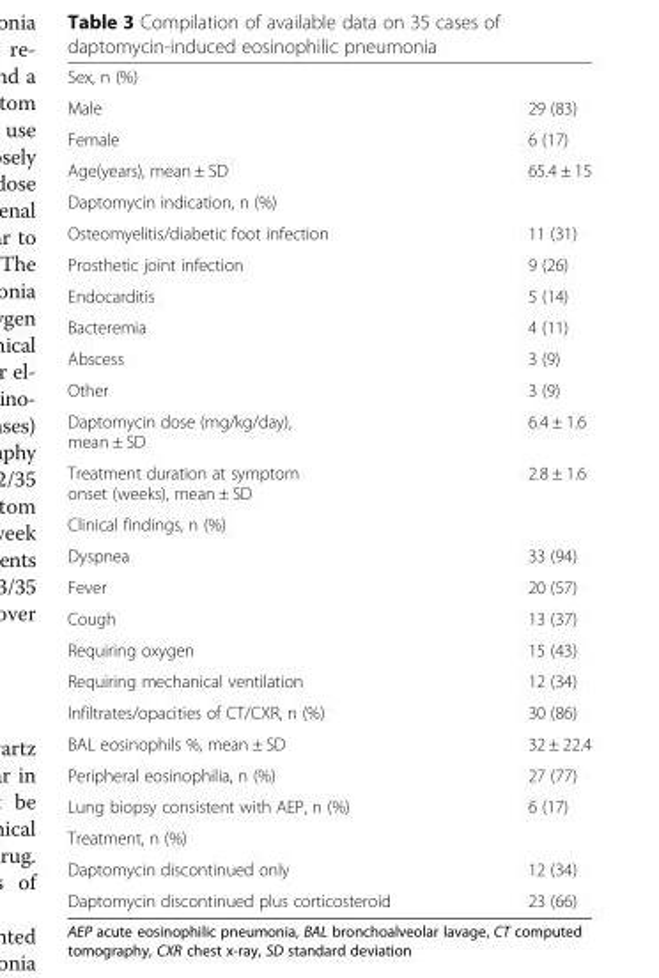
<table><tbody><tr><td colspan="2">Sex, n (%)</td></tr><tr><td>Male</td><td>29 (83)</td></tr><tr><td>Female</td><td>6 (17)</td></tr><tr><td>Age(years), mean ± SD</td><td>65.4 ± 15</td></tr><tr><td colspan="2">Daptomycin indication, n (%)</td></tr><tr><td>Osteomyelitis/diabetic foot infection</td><td>11 (31)</td></tr><tr><td>Prosthetic joint infection</td><td>9 (26)</td></tr><tr><td>Endocarditis</td><td>5 (14)</td></tr><tr><td>Bacteremia</td><td>4 (11)</td></tr><tr><td>Abscess</td><td>3 (9)</td></tr><tr><td>Other</td><td>3 (9)</td></tr><tr><td>Daptomycin dose (mg/kg/day), mean ± SD</td><td>6.4 ± 1.6</td></tr><tr><td>Treatment duration at symptom onset (weeks), mean ± SD</td><td>2.8 ± 1.6</td></tr><tr><td colspan="2">Clinical findings, n (%)</td></tr><tr><td>Dyspnea</td><td>33 (94)</td></tr><tr><td>Fever</td><td>20 (57)</td></tr><tr><td>Cough</td><td>13 (37)</td></tr><tr><td>Requiring oxygen</td><td>15 (43)</td></tr><tr><td>Requiring mechanical ventilation</td><td>12 (34)</td></tr><tr><td>Infiltrates/opacities of CT/CXR, n (%)</td><td>30 (86)</td></tr><tr><td>BAL eosinophils %, mean ± SD</td><td>32 ± 22.4</td></tr><tr><td>Peripheral eosinophilia, n (%)</td><td>27 (77)</td></tr><tr><td>Lung biopsy consistent with AEP, n (%)</td><td>6 (17)</td></tr><tr><td colspan="2">Treatment, n (%)</td></tr><tr><td>Daptomycin discontinued only</td><td>12 (34)</td></tr><tr><td>Daptomycin discontinued plus corticosteroid</td><td>23 (66)</td></tr></tbody></table>